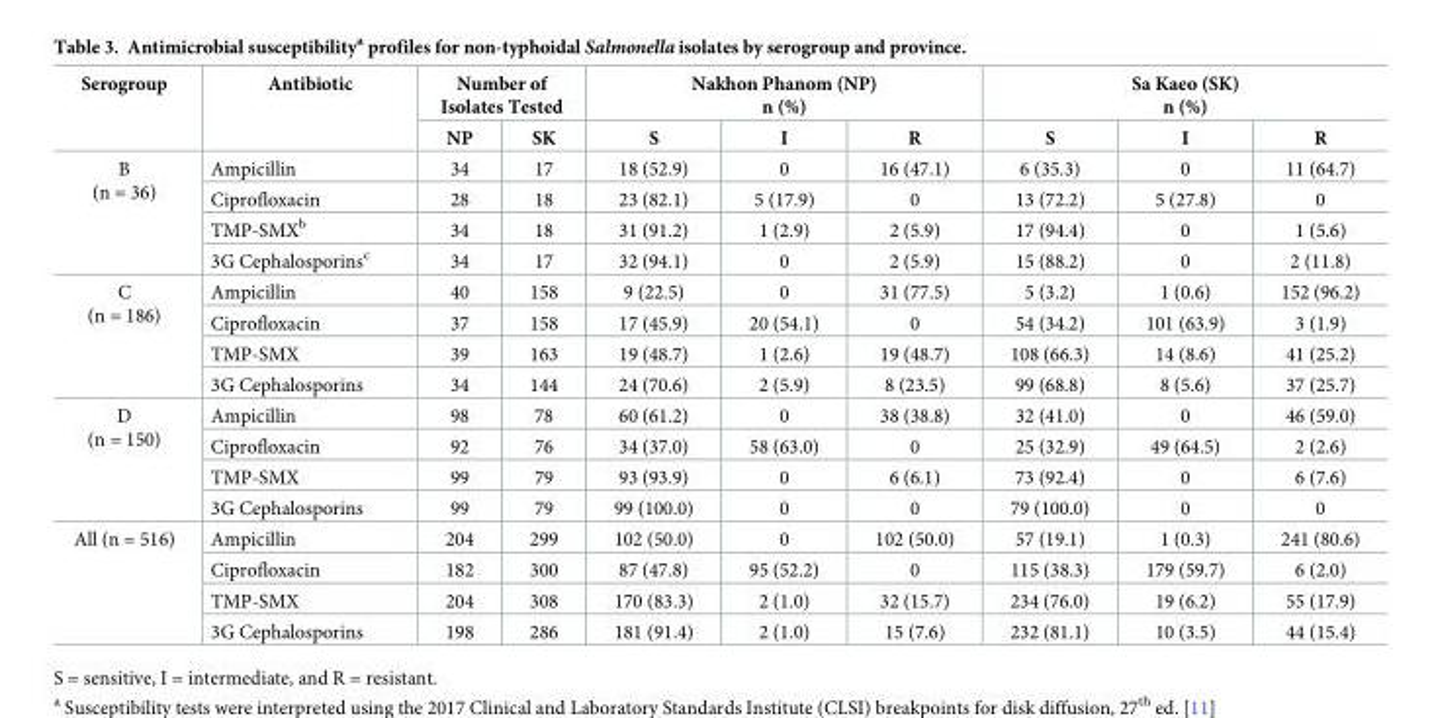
<table><thead><tr><td rowspan="2">Serogroup</td><td rowspan="2">Antibiotic</td><td colspan="2">Number of Isolates Tested</td><td colspan="3">Nakhon Phanom (NP) n (%)</td><td colspan="3">Sa Kaeo (SK) n (%)</td></tr><tr><td>NP</td><td>SK</td><td>S</td><td>I</td><td>R</td><td>S</td><td>I</td><td>R</td></tr></thead><tbody><tr><td rowspan="4">B (n = 36)</td><td>Ampicillin</td><td>34</td><td>17</td><td>18 (52.9)</td><td>0</td><td>16 (47.1)</td><td>6 (35.3)</td><td>0</td><td>11 (64.7)</td></tr><tr><td>Ciprofloxacin</td><td>28</td><td>18</td><td>23 (82.1)</td><td>5 (17.9)</td><td>0</td><td>13 (72.2)</td><td>5 (27.8)</td><td>0</td></tr><tr><td>TMP-SMX<sup>b</sup></td><td>34</td><td>18</td><td>31 (91.2)</td><td>1 (2.9)</td><td>2 (5.9)</td><td>17 (94.4)</td><td>0</td><td>1 (5.6)</td></tr><tr><td>3G Cephalosporins<sup>c</sup></td><td>34</td><td>17</td><td>32 (94.1)</td><td>0</td><td>2 (5.9)</td><td>15 (88.2)</td><td>0</td><td>2 (11.8)</td></tr><tr><td rowspan="4">C (n = 186)</td><td>Ampicillin</td><td>40</td><td>158</td><td>9 (22.5)</td><td>0</td><td>31 (77.5)</td><td>5 (3.2)</td><td>1 (0.6)</td><td>152 (96.2)</td></tr><tr><td>Ciprofloxacin</td><td>37</td><td>158</td><td>17 (45.9)</td><td>20 (54.1)</td><td>0</td><td>54 (34.2)</td><td>101 (63.9)</td><td>3 (1.9)</td></tr><tr><td>TMP-SMX</td><td>39</td><td>163</td><td>19 (48.7)</td><td>1 (2.6)</td><td>19 (48.7)</td><td>108 (66.3)</td><td>14 (8.6)</td><td>41 (25.2)</td></tr><tr><td>3G Cephalosporins</td><td>34</td><td>144</td><td>24 (70.6)</td><td>2 (5.9)</td><td>8 (23.5)</td><td>99 (68.8)</td><td>8 (5.6)</td><td>37 (25.7)</td></tr><tr><td rowspan="4">D (n = 150)</td><td>Ampicillin</td><td>98</td><td>78</td><td>60 (61.2)</td><td>0</td><td>38 (38.8)</td><td>32 (41.0)</td><td>0</td><td>46 (59.0)</td></tr><tr><td>Ciprofloxacin</td><td>92</td><td>76</td><td>34 (37.0)</td><td>58 (63.0)</td><td>0</td><td>25 (32.9)</td><td>49 (64.5)</td><td>2 (2.6)</td></tr><tr><td>TMP-SMX</td><td>99</td><td>79</td><td>93 (93.9)</td><td>0</td><td>6 (6.1)</td><td>73 (92.4)</td><td>0</td><td>6 (7.6)</td></tr><tr><td>3G Cephalosporins</td><td>99</td><td>79</td><td>99 (100.0)</td><td>0</td><td>0</td><td>79 (100.0)</td><td>0</td><td>0</td></tr><tr><td rowspan="4">All (n = 516)</td><td>Ampicillin</td><td>204</td><td>299</td><td>102 (50.0)</td><td>0</td><td>102 (50.0)</td><td>57 (19.1)</td><td>1 (0.3)</td><td>241 (80.6)</td></tr><tr><td>Ciprofloxacin</td><td>182</td><td>300</td><td>87 (47.8)</td><td>95 (52.2)</td><td>0</td><td>115 (38.3)</td><td>179 (59.7)</td><td>6 (2.0)</td></tr><tr><td>TMP-SMX</td><td>204</td><td>308</td><td>170 (83.3)</td><td>2 (1.0)</td><td>32 (15.7)</td><td>234 (76.0)</td><td>19 (6.2)</td><td>55 (17.9)</td></tr><tr><td>3G Cephalosporins</td><td>198</td><td>286</td><td>181 (91.4)</td><td>2 (1.0)</td><td>15 (7.6)</td><td>232 (81.1)</td><td>10 (3.5)</td><td>44 (15.4)</td></tr></tbody></table>